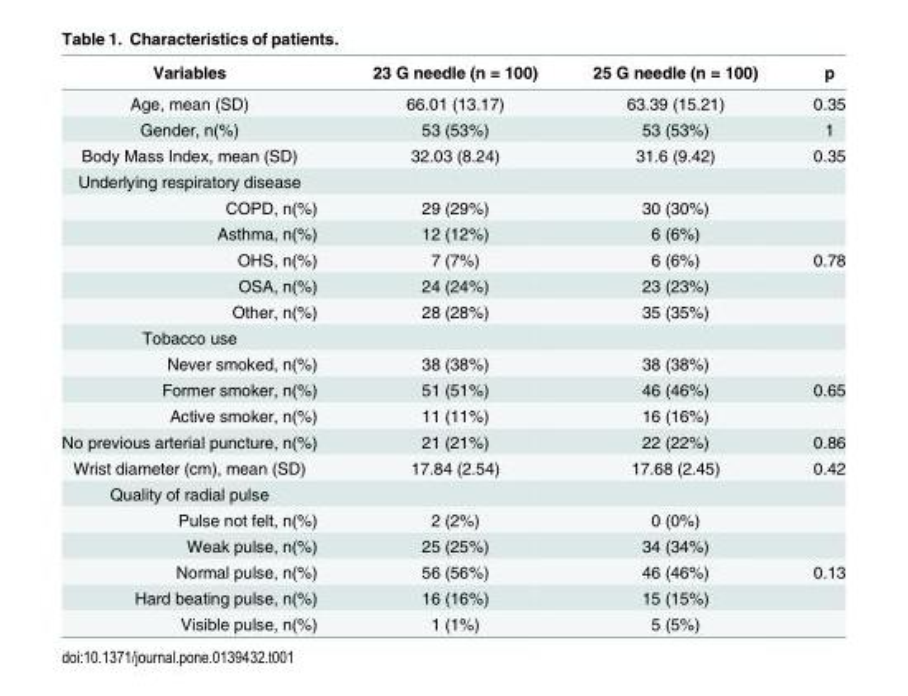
<table><thead><tr><td>Variables</td><td>23 G needle (n = 100)</td><td>25 G needle (n = 100)</td><td>p</td></tr></thead><tbody><tr><td>Age, mean (SD)</td><td>66.01 (13.17)</td><td>63.39 (15.21)</td><td>0.35</td></tr><tr><td>Gender, n(%)</td><td>53 (53%)</td><td>53 (53%)</td><td>1</td></tr><tr><td>Body Mass Index, mean (SD)</td><td>32.03 (8.24)</td><td>31.6 (9.42)</td><td>0.35</td></tr><tr><td colspan="4">Underlying respiratory disease</td></tr><tr><td>COPD, n(%)</td><td>29 (29%)</td><td>30 (30%)</td><td></td></tr><tr><td>Asthma, n(%)</td><td>12 (12%)</td><td>6 (6%)</td><td></td></tr><tr><td>OHS, n(%)</td><td>7 (7%)</td><td>6 (6%)</td><td>0.78</td></tr><tr><td>OSA, n(%)</td><td>24 (24%)</td><td>23 (23%)</td><td></td></tr><tr><td>Other, n(%)</td><td>28 (28%)</td><td>35 (35%)</td><td></td></tr><tr><td colspan="4">Tobacco use</td></tr><tr><td>Never smoked, n(%)</td><td>38 (38%)</td><td>38 (38%)</td><td></td></tr><tr><td>Former smoker, n(%)</td><td>51 (51%)</td><td>46 (46%)</td><td>0.65</td></tr><tr><td>Active smoker, n(%)</td><td>11 (11%)</td><td>16 (16%)</td><td></td></tr><tr><td>No previous arterial puncture, n(%)</td><td>21 (21%)</td><td>22 (22%)</td><td>0.86</td></tr><tr><td>Wrist diameter (cm), mean (SD)</td><td>17.84 (2.54)</td><td>17.68 (2.45)</td><td>0.42</td></tr><tr><td colspan="4">Quality of radial pulse</td></tr><tr><td>Pulse not felt, n(%)</td><td>2 (2%)</td><td>0 (0%)</td><td></td></tr><tr><td>Weak pulse, n(%)</td><td>25 (25%)</td><td>34 (34%)</td><td></td></tr><tr><td>Normal pulse, n(%)</td><td>56 (56%)</td><td>46 (46%)</td><td>0.13</td></tr><tr><td>Hard beating pulse, n(%)</td><td>16 (16%)</td><td>15 (15%)</td><td></td></tr><tr><td>Visible pulse, n(%)</td><td>1 (1%)</td><td>5 (5%)</td><td></td></tr></tbody></table>